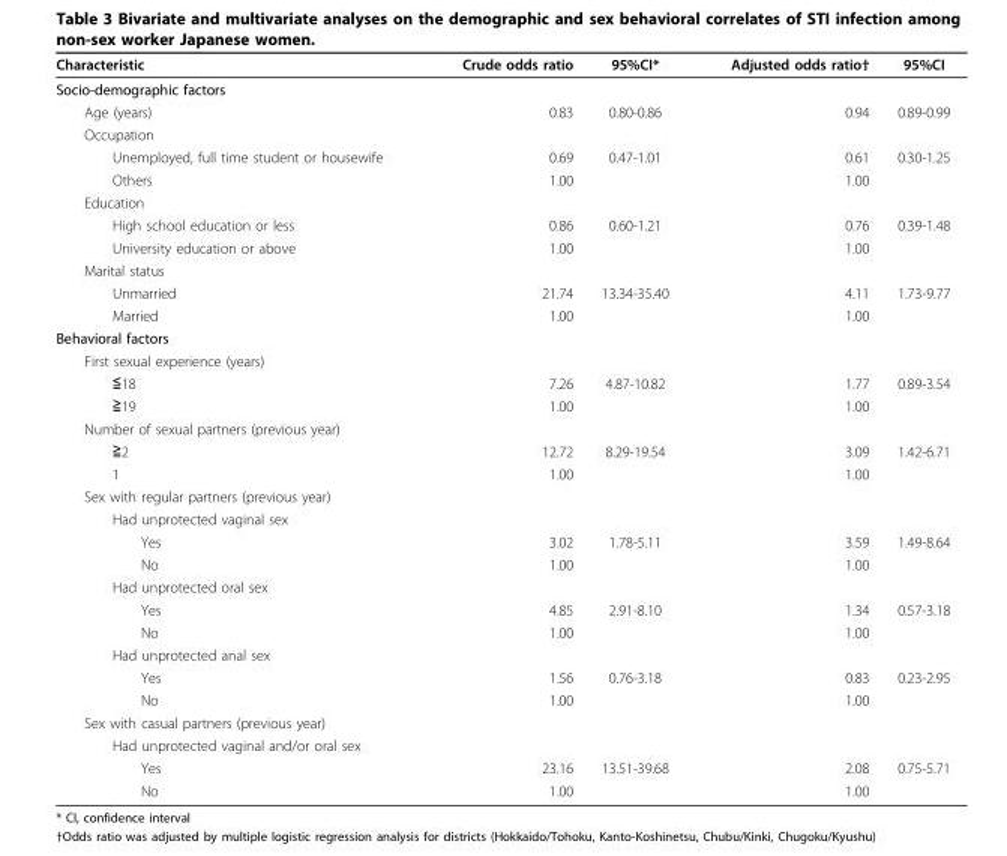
<table><thead><tr><td>Characteristic</td><td>Crude odds ratio</td><td>95%CI*</td><td>Adjusted odds ratio†</td><td>95%CI</td></tr></thead><tbody><tr><td colspan="5">Socio-demographic factors</td></tr><tr><td>Age (years)</td><td>0.83</td><td>0.80-0.86</td><td>0.94</td><td>0.89-0.99</td></tr><tr><td colspan="5">Occupation</td></tr><tr><td>Unemployed, full time student or housewife</td><td>0.69</td><td>0.47-1.01</td><td>0.61</td><td>0.30-1.25</td></tr><tr><td>Others</td><td>1.00</td><td></td><td>1.00</td><td></td></tr><tr><td colspan="5">Education</td></tr><tr><td>High school education or less</td><td>0.86</td><td>0.60-1.21</td><td>0.76</td><td>0.39-1.48</td></tr><tr><td>University education or above</td><td>1.00</td><td></td><td>1.00</td><td></td></tr><tr><td colspan="5">Marital status</td></tr><tr><td>Unmarried</td><td>21.74</td><td>13.34-35.40</td><td>4.11</td><td>1.73-9.77</td></tr><tr><td>Married</td><td>1.00</td><td></td><td>1.00</td><td></td></tr><tr><td colspan="5">Behavioral factors</td></tr><tr><td colspan="5">First sexual experience (years)</td></tr><tr><td>≦18</td><td>7.26</td><td>4.87-10.82</td><td>1.77</td><td>0.89-3.54</td></tr><tr><td>≧19</td><td>1.00</td><td></td><td>1.00</td><td></td></tr><tr><td colspan="5">Number of sexual partners (previous year)</td></tr><tr><td>≧2</td><td>12.72</td><td>8.29-19.54</td><td>3.09</td><td>1.42-6.71</td></tr><tr><td>1</td><td>1.00</td><td></td><td>1.00</td><td></td></tr><tr><td colspan="5">Sex with regular partners (previous year)</td></tr><tr><td colspan="5">Had unprotected vaginal sex</td></tr><tr><td>Yes</td><td>3.02</td><td>1.78-5.11</td><td>3.59</td><td>1.49-8.64</td></tr><tr><td>No</td><td>1.00</td><td></td><td>1.00</td><td></td></tr><tr><td colspan="5">Had unprotected oral sex</td></tr><tr><td>Yes</td><td>4.85</td><td>2.91-8.10</td><td>1.34</td><td>0.57-3.18</td></tr><tr><td>No</td><td>1.00</td><td></td><td>1.00</td><td></td></tr><tr><td colspan="5">Had unprotected anal sex</td></tr><tr><td>Yes</td><td>1.56</td><td>0.76-3.18</td><td>0.83</td><td>0.23-2.95</td></tr><tr><td>No</td><td>1.00</td><td></td><td>1.00</td><td></td></tr><tr><td colspan="5">Sex with casual partners (previous year)</td></tr><tr><td colspan="5">Had unprotected vaginal and/or oral sex</td></tr><tr><td>Yes</td><td>23.16</td><td>13.51-39.68</td><td>2.08</td><td>0.75-5.71</td></tr><tr><td>No</td><td>1.00</td><td></td><td>1.00</td><td></td></tr></tbody></table>